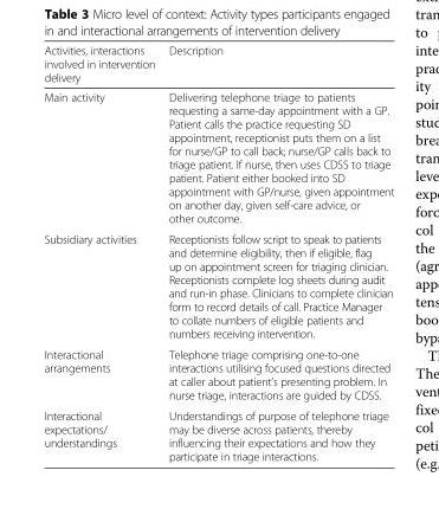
<table><thead><tr><td>Activities, interactions involved in intervention delivery</td><td>Description</td></tr></thead><tbody><tr><td>Main activity</td><td>Delivering telephone triage to patients requesting a same-day appointment with a GP. Patient calls the practice requesting SD appointment, receptionist puts them on a list for nurse/GP to call back; nurse/GP calls back to triage patient. If nurse, then uses CDSS to triage patient. Patient either booked into SD appointment with GP/nurse, given appointment on another day, given self-care advice, or other outcome.</td></tr><tr><td>Subsidiary activities</td><td>Receptionists follow script to speak to patients and determine eligibility, then if eligible, flag up on appointment screen for triaging clinician. Receptionists complete log sheets during audit and run-in phase. Clinicians to complete clinician form to record details of call. Practice Manager to collate numbers of eligible patients and numbers receiving intervention.</td></tr><tr><td>Interactional arrangements</td><td>Telephone triage comprising one-to-one interactions utilising focused questions directed at caller about patient’s presenting problem. In nurse triage, interactions are guided by CDSS.</td></tr><tr><td>Interactional expectations/ understandings</td><td>Understandings of purpose of telephone triage may be diverse across patients, thereby influencing their expectations and how they participate in triage interactions.</td></tr></tbody></table>